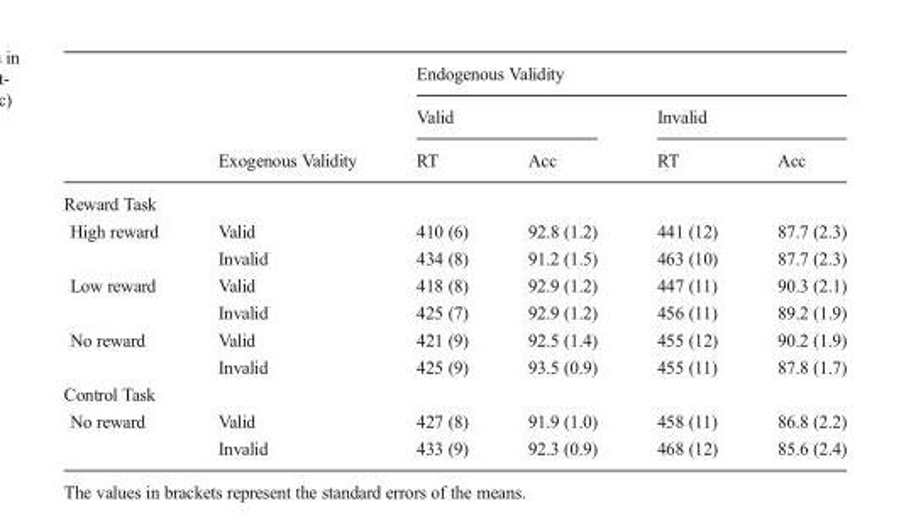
<table><thead><tr><td rowspan="3"></td><td rowspan="3">Exogenous Validity</td><td colspan="4">Endogenous Validity</td></tr><tr><td colspan="2">Valid</td><td colspan="2">Invalid</td></tr><tr><td>RT</td><td>Acc</td><td>RT</td><td>Acc</td></tr></thead><tbody><tr><td colspan="6">Reward Task</td></tr><tr><td rowspan="2">High reward</td><td>Valid</td><td>410 (6)</td><td>92.8 (1.2)</td><td>441 (12)</td><td>87.7 (2.3)</td></tr><tr><td>Invalid</td><td>434 (8)</td><td>91.2 (1.5)</td><td>463 (10)</td><td>87.7 (2.3)</td></tr><tr><td rowspan="2">Low reward</td><td>Valid</td><td>418 (8)</td><td>92.9 (1.2)</td><td>447 (11)</td><td>90.3 (2.1)</td></tr><tr><td>Invalid</td><td>425 (7)</td><td>92.9 (1.2)</td><td>456 (11)</td><td>89.2 (1.9)</td></tr><tr><td rowspan="2">No reward</td><td>Valid</td><td>421 (9)</td><td>92.5 (1.4)</td><td>455 (12)</td><td>90.2 (1.9)</td></tr><tr><td>Invalid</td><td>425 (9)</td><td>93.5 (0.9)</td><td>455 (11)</td><td>87.8 (1.7)</td></tr><tr><td colspan="6">Control Task</td></tr><tr><td rowspan="2">No reward</td><td>Valid</td><td>427 (8)</td><td>91.9 (1.0)</td><td>458 (11)</td><td>86.8 (2.2)</td></tr><tr><td>Invalid</td><td>433 (9)</td><td>92.3 (0.9)</td><td>468 (12)</td><td>85.6 (2.4)</td></tr></tbody></table>